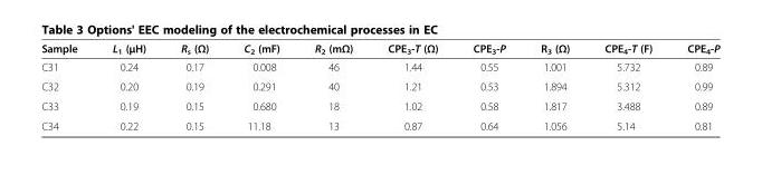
<table><thead><tr><td>Sample</td><td>L<sub>1</sub> (μH)</td><td>R<sub>s</sub> (Ω)</td><td>C<sub>2</sub> (mF)</td><td>R<sub>2</sub> (mΩ)</td><td>CPE<sub>3</sub>-T (Ω)</td><td>CPE<sub>3</sub>-P</td><td>R<sub>3</sub> (Ω)</td><td>CPE<sub>4</sub>-T (F)</td><td>CPE<sub>4</sub>-P</td></tr></thead><tbody><tr><td>C31</td><td>0.24</td><td>0.17</td><td>0.008</td><td>46</td><td>1.44</td><td>0.55</td><td>1.001</td><td>5.732</td><td>0.89</td></tr><tr><td>С32</td><td>0.20</td><td>0.19</td><td>0.291</td><td>40</td><td>1.21</td><td>0.53</td><td>1.894</td><td>5.312</td><td>0.99</td></tr><tr><td>С33</td><td>0.19</td><td>0.15</td><td>0.680</td><td>18</td><td>1.02</td><td>0.58</td><td>1.817</td><td>3.488</td><td>0.89</td></tr><tr><td>С34</td><td>0.22</td><td>0.15</td><td>11.18</td><td>13</td><td>0.87</td><td>0.64</td><td>1.056</td><td>5.14</td><td>0.81</td></tr></tbody></table>